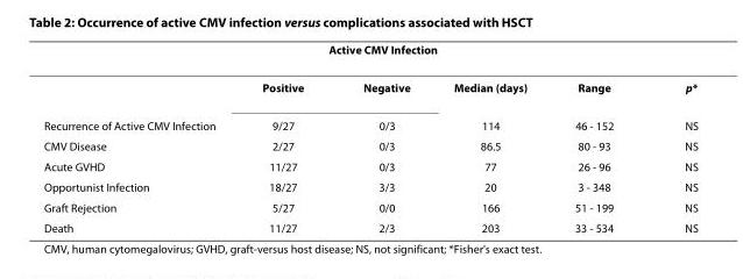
<table><thead><tr><td colspan="6">Active CMV Infection</td></tr><tr><td></td><td>Positive</td><td>Negative</td><td>Median (days)</td><td>Range</td><td>p*</td></tr></thead><tbody><tr><td>Recurrence of Active CMV Infection</td><td>9/27</td><td>0/3</td><td>114</td><td>46 - 152</td><td>NS</td></tr><tr><td>CMV Disease</td><td>2/27</td><td>0/3</td><td>86.5</td><td>80 - 93</td><td>NS</td></tr><tr><td>Acute GVHD</td><td>11/27</td><td>0/3</td><td>77</td><td>26 - 96</td><td>NS</td></tr><tr><td>Opportunist Infection</td><td>18/27</td><td>3/3</td><td>20</td><td>3 - 348</td><td>NS</td></tr><tr><td>Graft Rejection</td><td>5/27</td><td>0/0</td><td>166</td><td>51 - 199</td><td>NS</td></tr><tr><td>Death</td><td>11/27</td><td>2/3</td><td>203</td><td>33 - 534</td><td>NS</td></tr></tbody></table>